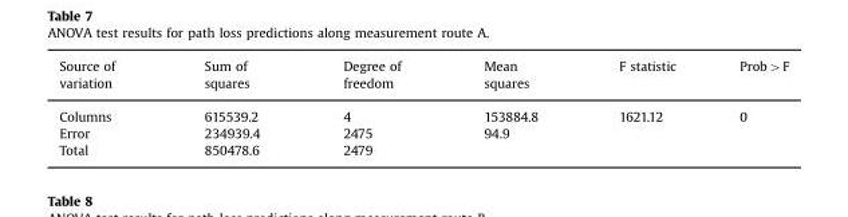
<table><thead><tr><td>Source of variation</td><td>Sum of squares</td><td>Degree of freedom</td><td>Mean squares</td><td>F statistic</td><td>Prob&gt;F</td></tr></thead><tbody><tr><td>Columns</td><td>615539.2</td><td>4</td><td>153884.8</td><td>1621.12</td><td>0</td></tr><tr><td>Error</td><td>234939.4</td><td>2475</td><td>94.9</td><td></td><td></td></tr><tr><td>Total</td><td>850478.6</td><td>2479</td><td></td><td></td><td></td></tr></tbody></table>